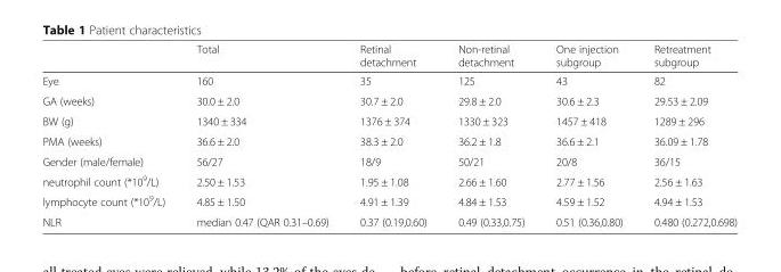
<table><thead><tr><td></td><td>Total</td><td>Retinal detachment</td><td>Non-retinal detachment</td><td>One injection subgroup</td><td>Retreatment subgroup</td></tr></thead><tbody><tr><td>Eye</td><td>160</td><td>35</td><td>125</td><td>43</td><td>82</td></tr><tr><td>GA (weeks)</td><td>30.0 ± 2.0</td><td>30.7 ± 2.0</td><td>29.8 ± 2.0</td><td>30.6 ± 2.3</td><td>29.53 ± 2.09</td></tr><tr><td>BW (g)</td><td>1340 ± 334</td><td>1376 ± 374</td><td>1330 ± 323</td><td>1457 ± 418</td><td>1289 ± 296</td></tr><tr><td>PMA (weeks)</td><td>36.6 ± 2.0</td><td>38.3 ± 2.0</td><td>36.2 ± 1.8</td><td>36.6 ± 2.1</td><td>36.09 ± 1.78</td></tr><tr><td>Gender (male/female)</td><td>56/27</td><td>18/9</td><td>50/21</td><td>20/8</td><td>36/15</td></tr><tr><td>neutrophil count (*10<sup>9</sup>/L)</td><td>2.50 ± 1.53</td><td>1.95 ± 1.08</td><td>2.66 ± 1.60</td><td>2.77 ± 1.56</td><td>2.56 ± 1.63</td></tr><tr><td>lymphocyte count (*10<sup>9</sup>/L)</td><td>4.85 ± 1.50</td><td>4.91 ± 1.39</td><td>4.84 ± 1.53</td><td>4.59 ± 1.52</td><td>4.94 ± 1.53</td></tr><tr><td>NLR</td><td>median 0.47 (QAR 0.31–0.69)</td><td>0.37 (0.19,0.60)</td><td>0.49 (0.33,0.75)</td><td>0.51 (0.36,0.80)</td><td>0.480 (0.272,0.698)</td></tr></tbody></table>